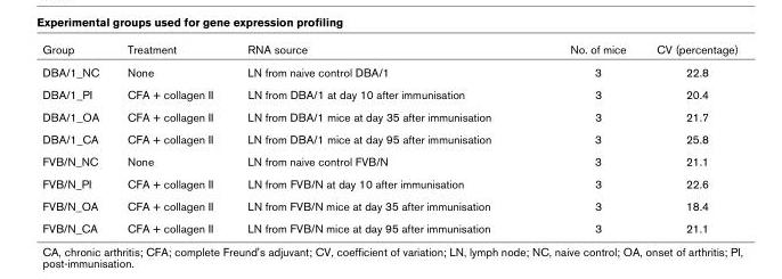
<table><thead><tr><td>Group</td><td>Treatment</td><td>RNA source</td><td>No. of mice</td><td>CV (percentage)</td></tr></thead><tbody><tr><td>DBA/1_NC</td><td>None</td><td>LN from naive control DBA/1</td><td>3</td><td>22.8</td></tr><tr><td>DBA/1_PI</td><td>CFA + collagen II</td><td>LN from DBA/1 at day 10 after immunisation</td><td>3</td><td>20.4</td></tr><tr><td>DBA/1_OA</td><td>CFA + collagen II</td><td>LN from DBA/1 mice at day 35 after immunisation</td><td>3</td><td>21.7</td></tr><tr><td>DBA/1_CA</td><td>CFA + collagen II</td><td>LN from DBA/1 mice at day 95 after immunisation</td><td>3</td><td>25.8</td></tr><tr><td>FVB/N_NC</td><td>None</td><td>LN from naive control FVB/N</td><td>3</td><td>21.1</td></tr><tr><td>FVB/N_PI</td><td>CFA + collagen II</td><td>LN from FVB/N at day 10 after immunisation</td><td>3</td><td>22.6</td></tr><tr><td>FVB/N_OA</td><td>CFA + collagen II</td><td>LN from FVB/N mice at day 35 after immunisation</td><td>3</td><td>18.4</td></tr><tr><td>FVB/N_CA</td><td>CFA + collagen II</td><td>LN from FVB/N mice at day 95 after immunisation</td><td>3</td><td>21.1</td></tr></tbody></table>